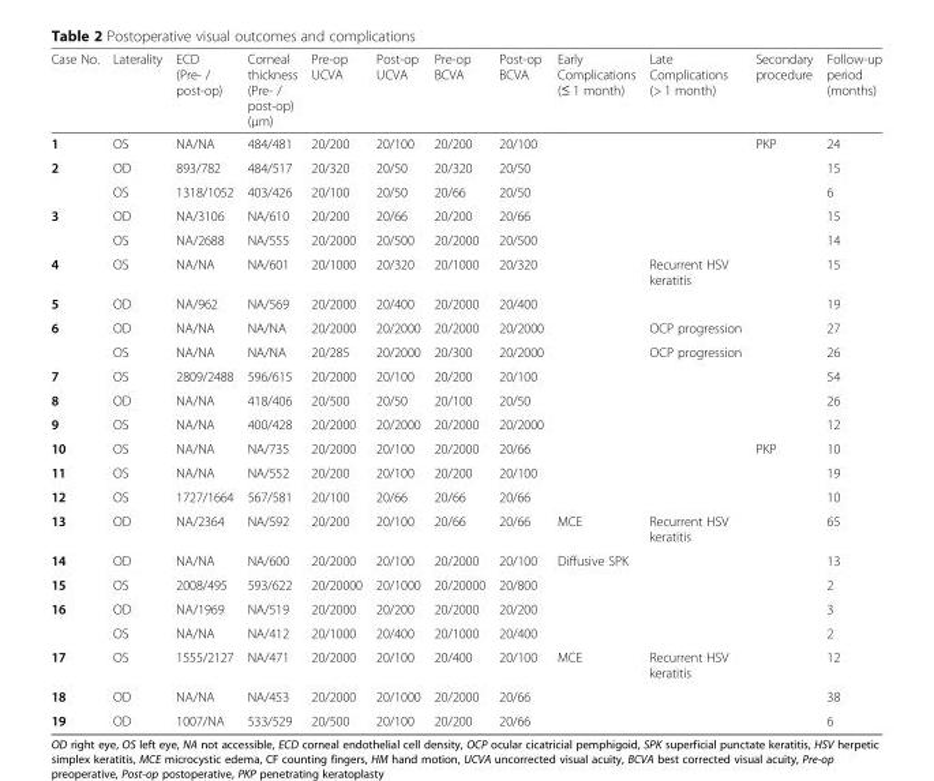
<table><thead><tr><td>Case No.</td><td>Laterality</td><td>ECD (Pre- / post-op)</td><td>Corneal thickness (Pre- / post-op) (μm)</td><td>Pre-op UCVA</td><td>Post-op UCVA</td><td>Pre-op BCVA</td><td>Post-op BCVA</td><td>Early Complications (≤ 1 month)</td><td>Late Complications (&gt; 1 month)</td><td>Secondary procedure</td><td>Follow-up period (months)</td></tr></thead><tbody><tr><td>1</td><td>OS</td><td>NA/NA</td><td>484/481</td><td>20/200</td><td>20/100</td><td>20/200</td><td>20/100</td><td></td><td></td><td>PKP</td><td>24</td></tr><tr><td rowspan="2">2</td><td>OD</td><td>893/782</td><td>484/517</td><td>20/320</td><td>20/50</td><td>20/320</td><td>20/50</td><td></td><td></td><td></td><td>15</td></tr><tr><td>OS</td><td>1318/1052</td><td>403/426</td><td>20/100</td><td>20/50</td><td>20/66</td><td>20/50</td><td></td><td></td><td></td><td>6</td></tr><tr><td rowspan="2">3</td><td>OD</td><td>NA/3106</td><td>NA/610</td><td>20/200</td><td>20/66</td><td>20/200</td><td>20/66</td><td></td><td></td><td></td><td>15</td></tr><tr><td>OS</td><td>NA/2688</td><td>NA/555</td><td>20/2000</td><td>20/500</td><td>20/2000</td><td>20/500</td><td></td><td></td><td></td><td>14</td></tr><tr><td>4</td><td>OS</td><td>NA/NA</td><td>NA/601</td><td>20/1000</td><td>20/320</td><td>20/1000</td><td>20/320</td><td></td><td>Recurrent HSV keratitis</td><td></td><td>15</td></tr><tr><td>5</td><td>OD</td><td>NA/962</td><td>NA/569</td><td>20/2000</td><td>20/400</td><td>20/2000</td><td>20/400</td><td></td><td></td><td></td><td>19</td></tr><tr><td rowspan="2">6</td><td>OD</td><td>NA/NA</td><td>NA/NA</td><td>20/2000</td><td>20/2000</td><td>20/2000</td><td>20/2000</td><td></td><td>OCP progression</td><td></td><td>27</td></tr><tr><td>OS</td><td>NA/NA</td><td>NA/NA</td><td>20/285</td><td>20/2000</td><td>20/300</td><td>20/2000</td><td></td><td>OCP progression</td><td></td><td>26</td></tr><tr><td>7</td><td>OS</td><td>2809/2488</td><td>596/615</td><td>20/2000</td><td>20/100</td><td>20/200</td><td>20/100</td><td></td><td></td><td></td><td>54</td></tr><tr><td>8</td><td>OD</td><td>NA/NA</td><td>418/406</td><td>20/500</td><td>20/50</td><td>20/100</td><td>20/50</td><td></td><td></td><td></td><td>26</td></tr><tr><td>9</td><td>OS</td><td>NA/NA</td><td>400/428</td><td>20/2000</td><td>20/2000</td><td>20/2000</td><td>20/2000</td><td></td><td></td><td></td><td>12</td></tr><tr><td>10</td><td>OS</td><td>NA/NA</td><td>NA/735</td><td>20/2000</td><td>20/100</td><td>20/2000</td><td>20/66</td><td></td><td></td><td>PKP</td><td>10</td></tr><tr><td>11</td><td>OS</td><td>NA/NA</td><td>NA/552</td><td>20/200</td><td>20/100</td><td>20/200</td><td>20/100</td><td></td><td></td><td></td><td>19</td></tr><tr><td>12</td><td>OS</td><td>1727/1664</td><td>567/581</td><td>20/100</td><td>20/66</td><td>20/66</td><td>20/66</td><td></td><td></td><td></td><td>10</td></tr><tr><td>13</td><td>OD</td><td>NA/2364</td><td>NA/592</td><td>20/200</td><td>20/100</td><td>20/66</td><td>20/66</td><td>MCE</td><td>Recurrent HSV keratitis</td><td></td><td>65</td></tr><tr><td>14</td><td>OD</td><td>NA/NA</td><td>NA/600</td><td>20/2000</td><td>20/100</td><td>20/2000</td><td>20/100</td><td>Diffusive SPK</td><td></td><td></td><td>13</td></tr><tr><td>15</td><td>OS</td><td>2008/495</td><td>593/622</td><td>20/20000</td><td>20/1000</td><td>20/20000</td><td>20/800</td><td></td><td></td><td></td><td>2</td></tr><tr><td rowspan="2">16</td><td>OD</td><td>NA/1969</td><td>NA/519</td><td>20/2000</td><td>20/200</td><td>20/2000</td><td>20/200</td><td></td><td></td><td></td><td>3</td></tr><tr><td>OS</td><td>NA/NA</td><td>NA/412</td><td>20/1000</td><td>20/400</td><td>20/1000</td><td>20/400</td><td></td><td></td><td></td><td>2</td></tr><tr><td>17</td><td>OS</td><td>1555/2127</td><td>NA/471</td><td>20/2000</td><td>20/100</td><td>20/400</td><td>20/100</td><td>MCE</td><td>Recurrent HSV keratitis</td><td></td><td>12</td></tr><tr><td>18</td><td>OD</td><td>NA/NA</td><td>NA/453</td><td>20/2000</td><td>20/1000</td><td>20/2000</td><td>20/66</td><td></td><td></td><td></td><td>38</td></tr><tr><td>19</td><td>OD</td><td>1007/NA</td><td>533/529</td><td>20/500</td><td>20/100</td><td>20/200</td><td>20/66</td><td></td><td></td><td></td><td>6</td></tr></tbody></table>